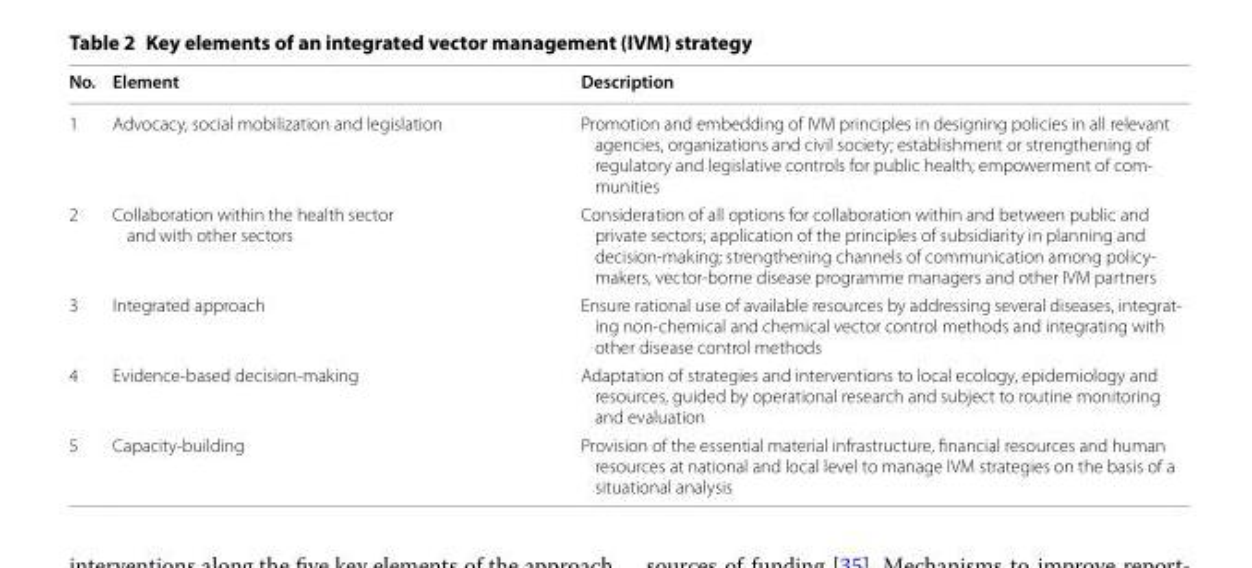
<table><thead><tr><td>No.</td><td>Element</td><td>Description</td></tr></thead><tbody><tr><td>1</td><td>Advocacy, social mobilization and legislation</td><td>Promotion and embedding of IVM principles in designing policies in all relevant agencies, organizations and civil society; establishment or strengthening of regulatory and legislative controls for public health; empowerment of com- munities</td></tr><tr><td>2</td><td>Collaboration within the health sector and with other sectors</td><td>Consideration of all options for collaboration within and between public and private sectors; application of the principles of subsidiarity in planning and decision-making; strengthening channels of communication among policy- makers, vector-borne disease programme managers and other IVM partners</td></tr><tr><td>3</td><td>Integrated approach</td><td>Ensure rational use of available resources by addressing several diseases, integrat- ing non-chemical and chemical vector control methods and integrating with other disease control methods</td></tr><tr><td>4</td><td>Evidence-based decision-making</td><td>Adaptation of strategies and interventions to local ecology, epidemiology and resources, guided by operational research and subject to routine monitoring and evaluation</td></tr><tr><td>5</td><td>Capacity-building</td><td>Provision of the essential material infrastructure, financial resources and human resources at national and local level to manage IVM strategies on the basis of a situational analysis</td></tr></tbody></table>